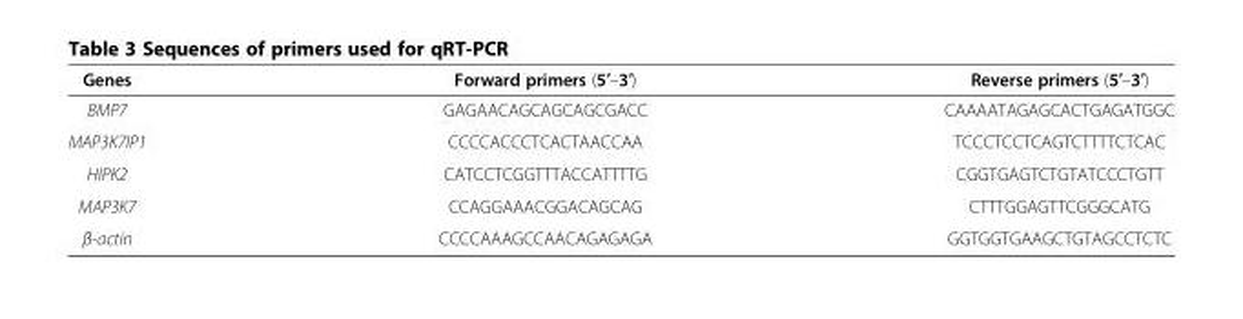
<table><thead><tr><td>Genes</td><td>Forward primers (5′–3′)</td><td>Reverse primers (5′–3′)</td></tr></thead><tbody><tr><td>BMP7</td><td>GAGAACAGCAGCAGCGACC</td><td>CAAAATAGAGCACTGAGATGGC</td></tr><tr><td>MAP3K7IP1</td><td>CCCCACCCTCACTAACCAA</td><td>TCCCTCCTCAGTCTTTTCTCAC</td></tr><tr><td>HIPK2</td><td>CATCCTCGGTTTACCATTTTG</td><td>CGGTGAGTCTGTATCCCTGTT</td></tr><tr><td>MAP3K7</td><td>CCAGGAAACGGACAGCAG</td><td>CTTTGGAGTTCGGGCATG</td></tr><tr><td>β-actin</td><td>CCCCAAAGCCAACAGAGAGA</td><td>GGTGGTGAAGCTGTAGCCTCTC</td></tr></tbody></table>